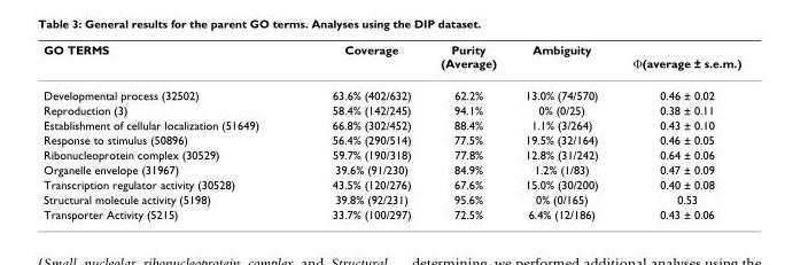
<table><thead><tr><td>GO TERMS</td><td>Coverage</td><td>Purity (Average)</td><td>Ambiguity</td><td>Φ(average ± s.e.m.)</td></tr></thead><tbody><tr><td>Developmental process (32502)</td><td>63.6% (402/632)</td><td>62.2%</td><td>13.0% (74/570)</td><td>0.46 ± 0.02</td></tr><tr><td>Reproduction (3)</td><td>58.4% (142/245)</td><td>94.1%</td><td>0% (0/25)</td><td>0.38 ± 0.11</td></tr><tr><td>Establishment of cellular localization (51649)</td><td>66.8% (302/452)</td><td>88.4%</td><td>1.1% (3/264)</td><td>0.43 ± 0.10</td></tr><tr><td>Response to stimulus (50896)</td><td>56.4% (290/514)</td><td>77.5%</td><td>19.5% (32/164)</td><td>0.46 ± 0.05</td></tr><tr><td>Ribonucleoprotein complex (30529)</td><td>59.7% (190/318)</td><td>77.8%</td><td>12.8% (31/242)</td><td>0.64 ± 0.06</td></tr><tr><td>Organelle envelope (31967)</td><td>39.6% (91/230)</td><td>84.9%</td><td>1.2% (1/83)</td><td>0.47 ± 0.09</td></tr><tr><td>Transcription regulator activity (30528)</td><td>43.5% (120/276)</td><td>67.6%</td><td>15.0% (30/200)</td><td>0.40 ± 0.08</td></tr><tr><td>Structural molecule activity (5198)</td><td>39.8% (92/231)</td><td>95.6%</td><td>0% (0/165)</td><td>0.53</td></tr><tr><td>Transporter Activity (5215)</td><td>33.7% (100/297)</td><td>72.5%</td><td>6.4% (12/186)</td><td>0.43 ± 0.06</td></tr></tbody></table>